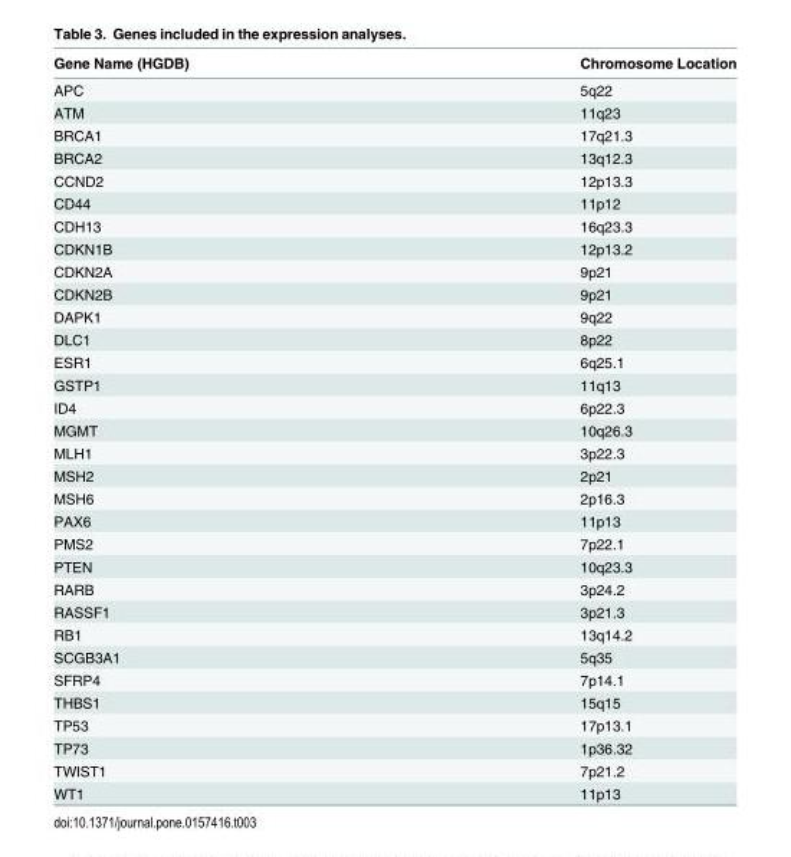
<table><thead><tr><td>Gene Name (HGDB)</td><td>Chromosome Location</td></tr></thead><tbody><tr><td>APC</td><td>5q22</td></tr><tr><td>ATM</td><td>11q23</td></tr><tr><td>BRCA1</td><td>17q21.3</td></tr><tr><td>BRCA2</td><td>13q12.3</td></tr><tr><td>CCND2</td><td>12p13.3</td></tr><tr><td>CD44</td><td>11p12</td></tr><tr><td>CDH13</td><td>16q23.3</td></tr><tr><td>CDKN1B</td><td>12p13.2</td></tr><tr><td>CDKN2A</td><td>9p21</td></tr><tr><td>CDKN2B</td><td>9p21</td></tr><tr><td>DAPK1</td><td>9q22</td></tr><tr><td>DLC1</td><td>8p22</td></tr><tr><td>ESR1</td><td>6q25.1</td></tr><tr><td>GSTP1</td><td>11q13</td></tr><tr><td>ID4</td><td>6p22.3</td></tr><tr><td>MGMT</td><td>10q26.3</td></tr><tr><td>MLH1</td><td>3p22.3</td></tr><tr><td>MSH2</td><td>2p21</td></tr><tr><td>MSH6</td><td>2p16.3</td></tr><tr><td>PAX6</td><td>11p13</td></tr><tr><td>PMS2</td><td>7p22.1</td></tr><tr><td>PTEN</td><td>10q23.3</td></tr><tr><td>RARB</td><td>3p24.2</td></tr><tr><td>RASSF1</td><td>3p21.3</td></tr><tr><td>RB1</td><td>13q14.2</td></tr><tr><td>SCGB3A1</td><td>5q35</td></tr><tr><td>SFRP4</td><td>7p14.1</td></tr><tr><td>THBS1</td><td>15q15</td></tr><tr><td>TP53</td><td>17p13.1</td></tr><tr><td>TP73</td><td>1p36.32</td></tr><tr><td>TWIST1</td><td>7p21.2</td></tr><tr><td>WT1</td><td>11p13</td></tr></tbody></table>